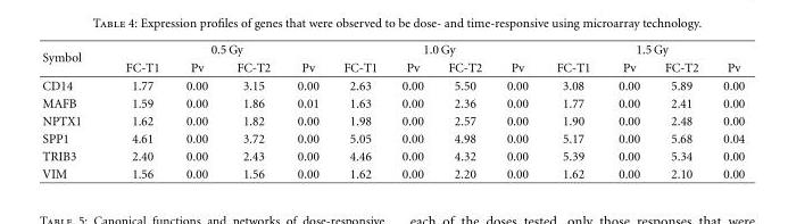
<table><thead><tr><td rowspan="2">Symbol</td><td colspan="4">0.5 Gy</td><td colspan="4">1.0 Gy</td><td colspan="4">1.5 Gy</td></tr><tr><td>FC-T1</td><td>Pv</td><td>FC-T2</td><td>Pv</td><td>FC-T1</td><td>Pv</td><td>FC-T2</td><td>Pv</td><td>FC-T1</td><td>Pv</td><td>FC-T2</td><td>Pv</td></tr></thead><tbody><tr><td>CD14</td><td>1.77</td><td>0.00</td><td>3.15</td><td>0.00</td><td>2.63</td><td>0.00</td><td>5.50</td><td>0.00</td><td>3.08</td><td>0.00</td><td>5.89</td><td>0.00</td></tr><tr><td>MAFB</td><td>1.59</td><td>0.00</td><td>1.86</td><td>0.01</td><td>1.63</td><td>0.00</td><td>2.36</td><td>0.00</td><td>1.77</td><td>0.00</td><td>2.41</td><td>0.00</td></tr><tr><td>NPTX1</td><td>1.62</td><td>0.00</td><td>1.82</td><td>0.00</td><td>1.98</td><td>0.00</td><td>2.57</td><td>0.00</td><td>1.90</td><td>0.00</td><td>2.48</td><td>0.00</td></tr><tr><td>SPP1</td><td>4.61</td><td>0.00</td><td>3.72</td><td>0.00</td><td>5.05</td><td>0.00</td><td>4.98</td><td>0.00</td><td>5.17</td><td>0.00</td><td>5.68</td><td>0.04</td></tr><tr><td>TRIB3</td><td>2.40</td><td>0.00</td><td>2.43</td><td>0.00</td><td>4.46</td><td>0.00</td><td>4.32</td><td>0.00</td><td>5.39</td><td>0.00</td><td>5.34</td><td>0.00</td></tr><tr><td>VIM</td><td>1.56</td><td>0.00</td><td>1.56</td><td>0.00</td><td>1.62</td><td>0.00</td><td>2.20</td><td>0.00</td><td>1.62</td><td>0.00</td><td>2.10</td><td>0.00</td></tr></tbody></table>